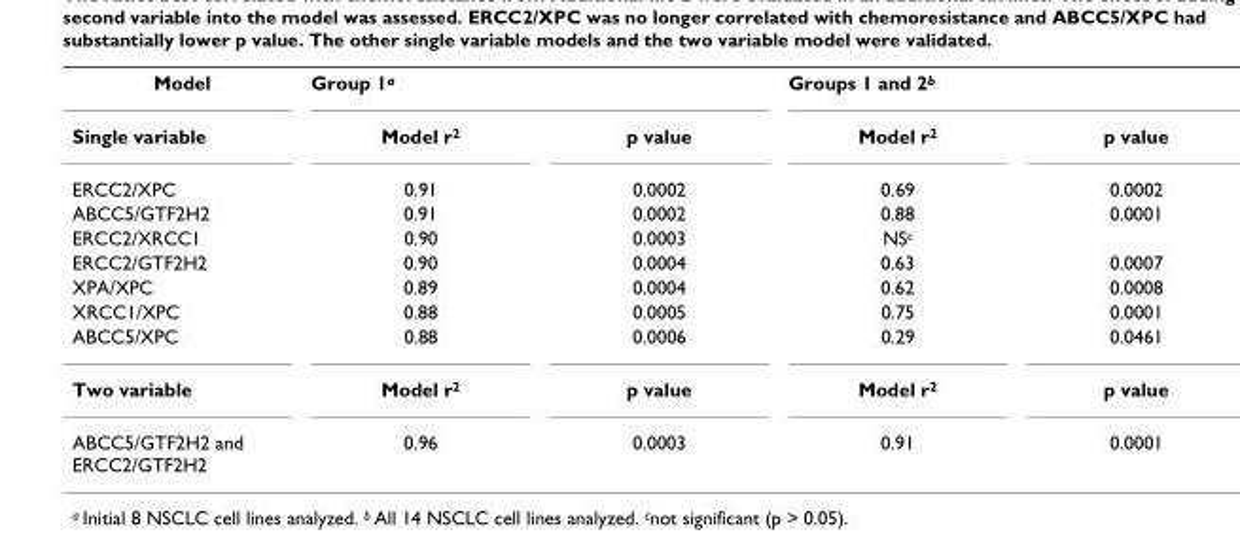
<table><tbody><tr><td>Model</td><td colspan="2">Group 1<sup>a</sup></td><td colspan="2">Groups 1 and 2<sup>b</sup></td></tr><tr><td>Single variable</td><td>Model r<sup>2</sup></td><td>p value</td><td>Model r<sup>2</sup></td><td>p value</td></tr><tr><td>ERCC2/XPC</td><td>0.91</td><td>0.0002</td><td>0.69</td><td>0.0002</td></tr><tr><td>ABCC5/GTF2H2</td><td>0.91</td><td>0.0002</td><td>0.88</td><td>0.0001</td></tr><tr><td>ERCC2/XRCC1</td><td>0.90</td><td>0.0003</td><td>NS<sup>c</sup></td><td></td></tr><tr><td>ERCC2/GTF2H2</td><td>0.90</td><td>0.0004</td><td>0.63</td><td>0.0007</td></tr><tr><td>XPA/XPC</td><td>0.89</td><td>0.0004</td><td>0.62</td><td>0.0008</td></tr><tr><td>XRCC1/XPC</td><td>0.88</td><td>0.0005</td><td>0.75</td><td>0.0001</td></tr><tr><td>ABCC5/XPC</td><td>0.88</td><td>0.0006</td><td>0.29</td><td>0.0461</td></tr><tr><td>Two variable</td><td>Model r<sup>2</sup></td><td>p value</td><td>Model r<sup>2</sup></td><td>p value</td></tr><tr><td>ABCC5/GTF2H2 and ERCC2/GTF2H2</td><td>0.96</td><td>0.0003</td><td>0.91</td><td>0.0001</td></tr></tbody></table>